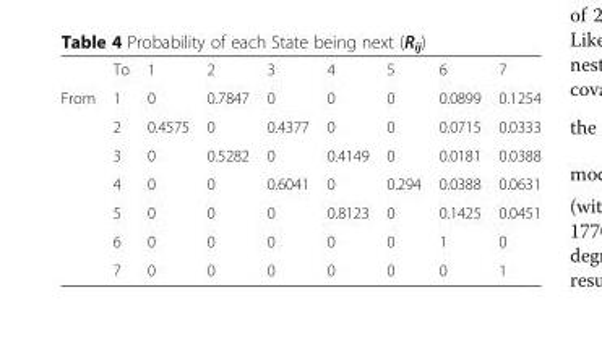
<table><thead><tr><td></td><td>To</td><td>1</td><td>2</td><td>3</td><td>4</td><td>5</td><td>6</td><td>7</td></tr></thead><tbody><tr><td rowspan="7">From</td><td>1</td><td>0</td><td>0.7847</td><td>0</td><td>0</td><td>0</td><td>0.0899</td><td>0.1254</td></tr><tr><td>2</td><td>0.4575</td><td>0</td><td>0.4377</td><td>0</td><td>0</td><td>0.0715</td><td>0.0333</td></tr><tr><td>3</td><td>0</td><td>0.5282</td><td>0</td><td>0.4149</td><td>0</td><td>0.0181</td><td>0.0388</td></tr><tr><td>4</td><td>0</td><td>0</td><td>0.6041</td><td>0</td><td>0.294</td><td>0.0388</td><td>0.0631</td></tr><tr><td>5</td><td>0</td><td>0</td><td>0</td><td>0.8123</td><td>0</td><td>0.1425</td><td>0.0451</td></tr><tr><td>6</td><td>0</td><td>0</td><td>0</td><td>0</td><td>0</td><td>1</td><td>0</td></tr><tr><td>7</td><td>0</td><td>0</td><td>0</td><td>0</td><td>0</td><td>0</td><td>1</td></tr></tbody></table>